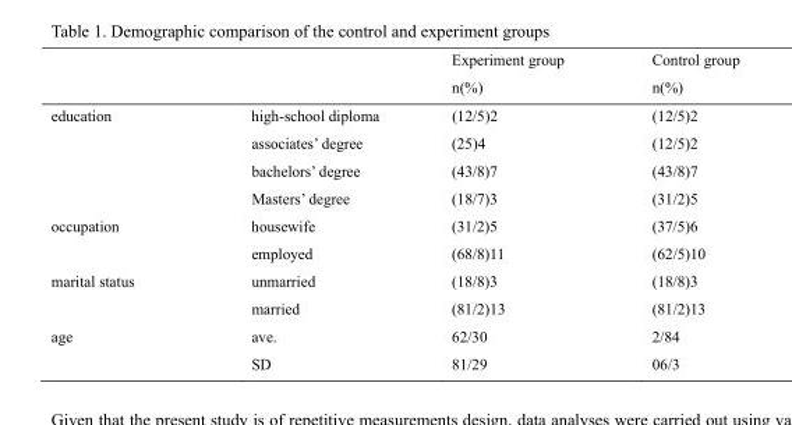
<table><thead><tr><td rowspan="2"></td><td rowspan="2"></td><td rowspan="2">Experiment group n(%)</td><td rowspan="2">Control group n(%)</td></tr><tr></tr></thead><tbody><tr><td rowspan="4">education</td><td>high-school diploma</td><td>(12/5)2</td><td>(12/5)2</td></tr><tr><td>associates’ degree</td><td>(25)4</td><td>(12/5)2</td></tr><tr><td>bachelors’ degree</td><td>(43/8)7</td><td>(43/8)7</td></tr><tr><td>Masters’ degree</td><td>(18/7)3</td><td>(31/2)5</td></tr><tr><td rowspan="2">occupation</td><td>housewife</td><td>(31/2)5</td><td>(37/5)6</td></tr><tr><td>employed</td><td>(68/8)11</td><td>(62/5)10</td></tr><tr><td rowspan="2">marital status</td><td>unmarried</td><td>(18/8)3</td><td>(18/8)3</td></tr><tr><td>married</td><td>(81/2)13</td><td>(81/2)13</td></tr><tr><td rowspan="2">age</td><td>ave.</td><td>62/30</td><td>2/84</td></tr><tr><td>SD</td><td>81/29</td><td>06/3</td></tr></tbody></table>